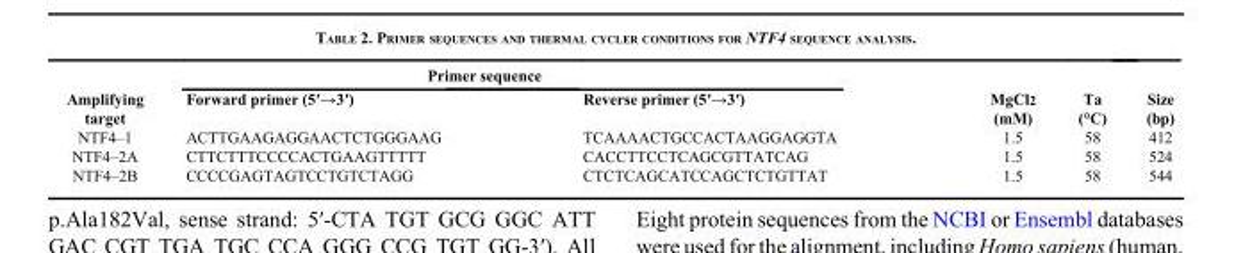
<table><thead><tr><td rowspan="2">Amplifying target</td><td colspan="2">Primer sequence</td><td rowspan="2">MgCl<sub>2</sub> (mM)</td><td rowspan="2">Ta (°C)</td><td rowspan="2">Size (bp)</td></tr><tr><td>Forward primer (5′→3′)</td><td>Reverse primer (5′→3′)</td></tr></thead><tbody><tr><td>NTF4–1</td><td>ACTTGAAGAGGAACTCTGGGAAG</td><td>TCAAAACTGCCACTAAGGAGGTA</td><td>1.5</td><td>58</td><td>412</td></tr><tr><td>NTF4–2A</td><td>CTTCTTTCCCCACTGAAGTTTTT</td><td>CACCTTCCTCAGCGTTATCAG</td><td>1.5</td><td>58</td><td>524</td></tr><tr><td>NTF4–2B</td><td>CCCCGAGTAGTCCTGTCTAGG</td><td>CTCTCAGCATCCAGCTCTGTTAT</td><td>1.5</td><td>58</td><td>544</td></tr></tbody></table>